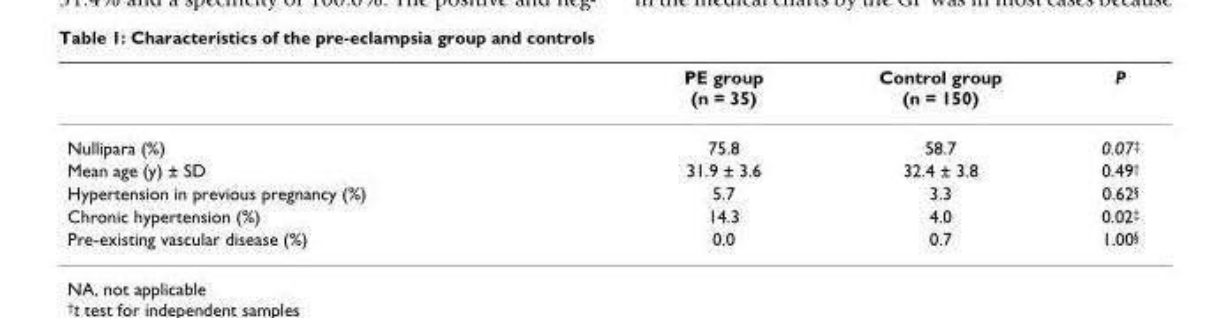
<table><thead><tr><td></td><td>PE group (n = 35)</td><td>Control group (n = 150)</td><td>P</td></tr></thead><tbody><tr><td>Nullipara (%)</td><td>75.8</td><td>58.7</td><td>0.07<sup>‡</sup></td></tr><tr><td>Mean age (y) ± SD</td><td>31.9 ± 3.6</td><td>32.4 ± 3.8</td><td>0.49<sup>†</sup></td></tr><tr><td>Hypertension in previous pregnancy (%)</td><td>5.7</td><td>3.3</td><td>0.62<sup>§</sup></td></tr><tr><td>Chronic hypertension (%)</td><td>14.3</td><td>4.0</td><td>0.02<sup>‡</sup></td></tr><tr><td>Pre-existing vascular disease (%)</td><td>0.0</td><td>0.7</td><td>1.00<sup>§</sup></td></tr></tbody></table>